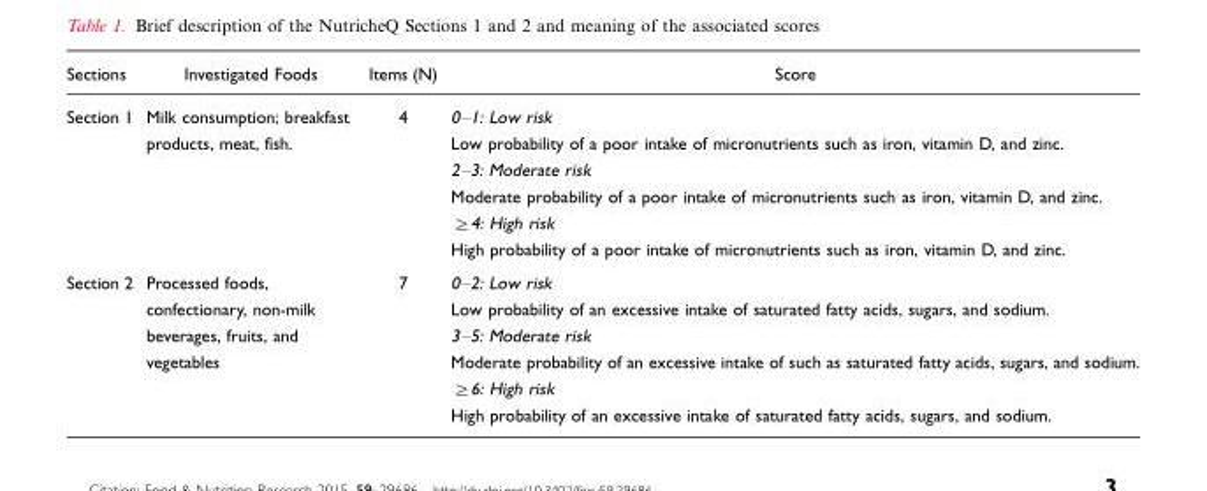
<table><thead><tr><td>Sections</td><td>Investigated Foods</td><td>Items (N)</td><td>Score</td></tr></thead><tbody><tr><td>Section 1</td><td>Milk consumption; breakfast products, meat, fish.</td><td>4</td><td>0–1: Low risk Low probability of a poor intake of micronutrients such as iron, vitamin D, and zinc. 2–3: Moderate risk Moderate probability of a poor intake of micronutrients such as iron, vitamin D, and zinc. ≥4: High risk High probability of a poor intake of micronutrients such as iron, vitamin D, and zinc.</td></tr><tr><td>Section 2</td><td>Processed foods, confectionary, non-milk beverages, fruits, and vegetables</td><td>7</td><td>0–2: Low risk Low probability of an excessive intake of saturated fatty acids, sugars, and sodium. 3–5: Moderate risk Moderate probability of an excessive intake of such as saturated fatty acids, sugars, and sodium. ≥6: High risk High probability of an excessive intake of saturated fatty acids, sugars, and sodium.</td></tr></tbody></table>